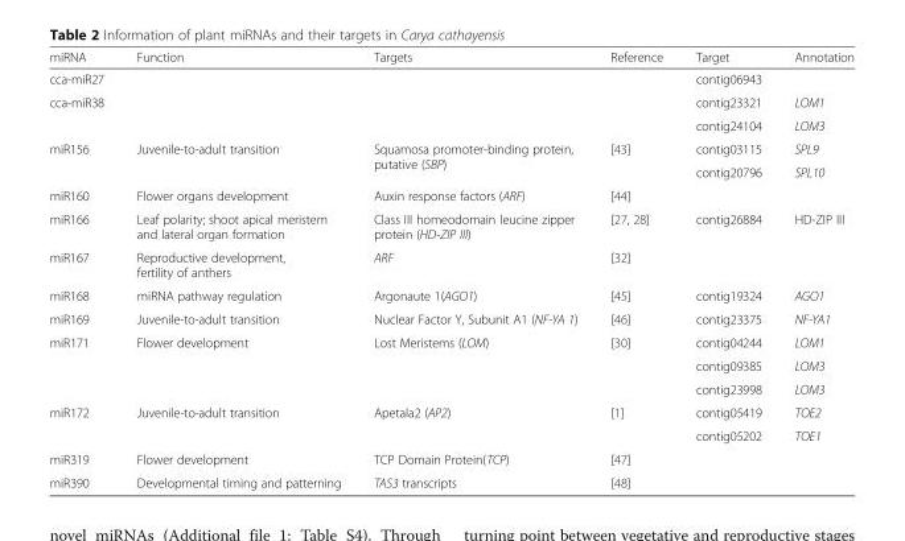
<table><thead><tr><td>miRNA</td><td>Function</td><td>Targets</td><td>Reference</td><td>Target</td><td>Annotation</td></tr></thead><tbody><tr><td>cca-miR27</td><td></td><td></td><td></td><td>contig06943</td><td></td></tr><tr><td rowspan="2">cca-miR38</td><td rowspan="2"></td><td rowspan="2"></td><td rowspan="2"></td><td>contig23321</td><td>LOM1</td></tr><tr><td>contig24104</td><td>LOM3</td></tr><tr><td rowspan="2">miR156</td><td rowspan="2">Juvenile-to-adult transition</td><td rowspan="2">Squamosa promoter-binding protein, putative (SBP)</td><td rowspan="2">[43]</td><td>contig03115</td><td>SPL9</td></tr><tr><td>contig20796</td><td>SPL10</td></tr><tr><td>miR160</td><td>Flower organs development</td><td>Auxin response factors (ARF)</td><td>[44]</td><td></td><td></td></tr><tr><td>miR166</td><td>Leaf polarity; shoot apical meristem and lateral organ formation</td><td>Class III homeodomain leucine zipper protein (HD-ZIP III)</td><td>[27, 28]</td><td>contig26884</td><td>HD-ZIP III</td></tr><tr><td>miR167</td><td>Reproductive development, fertility of anthers</td><td>ARF</td><td>[32]</td><td></td><td></td></tr><tr><td>miR168</td><td>miRNA pathway regulation</td><td>Argonaute 1(AGO1)</td><td>[45]</td><td>contig19324</td><td>AGO1</td></tr><tr><td>miR169</td><td>Juvenile-to-adult transition</td><td>Nuclear Factor Y, Subunit A1 (NF-YA 1)</td><td>[46]</td><td>contig23375</td><td>NF-YA1</td></tr><tr><td rowspan="3">miR171</td><td rowspan="3">Flower development</td><td rowspan="3">Lost Meristems (LOM)</td><td rowspan="3">[30]</td><td>contig04244</td><td>LOM1</td></tr><tr><td>contig09385</td><td>LOM3</td></tr><tr><td>contig23998</td><td>LOM3</td></tr><tr><td rowspan="2">miR172</td><td rowspan="2">Juvenile-to-adult transition</td><td rowspan="2">Apetala2 (AP2)</td><td rowspan="2">[1]</td><td>contig05419</td><td>TOE2</td></tr><tr><td>contig05202</td><td>TOE1</td></tr><tr><td>miR319</td><td>Flower development</td><td>TCP Domain Protein(TCP)</td><td>[47]</td><td></td><td></td></tr><tr><td>miR390</td><td>Developmental timing and patterning</td><td>TAS3 transcripts</td><td>[48]</td><td></td><td></td></tr></tbody></table>